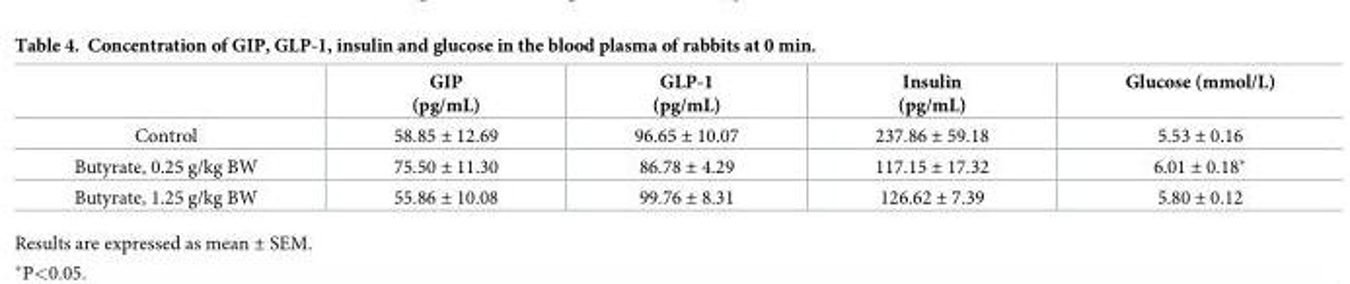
<table><thead><tr><td></td><td>GIP (pg/mL)</td><td>GLP-1 (pg/mL)</td><td>Insulin (pg/mL)</td><td>Glucose (mmol/L)</td></tr></thead><tbody><tr><td>Control</td><td>58.85 ± 12.69</td><td>96.65 ± 10.07</td><td>237.86 ± 59.18</td><td>5.53 ± 0.16</td></tr><tr><td>Butyrate, 0.25 g/kg BW</td><td>75.50 ± 11.30</td><td>86.78 ± 4.29</td><td>117.15 ± 17.32</td><td>6.01 ± 0.18*</td></tr><tr><td>Butyrate, 1.25 g/kg BW</td><td>55.86 ± 10.08</td><td>99.76 ± 8.31</td><td>126.62 ± 7.39</td><td>5.80 ± 0.12</td></tr></tbody></table>